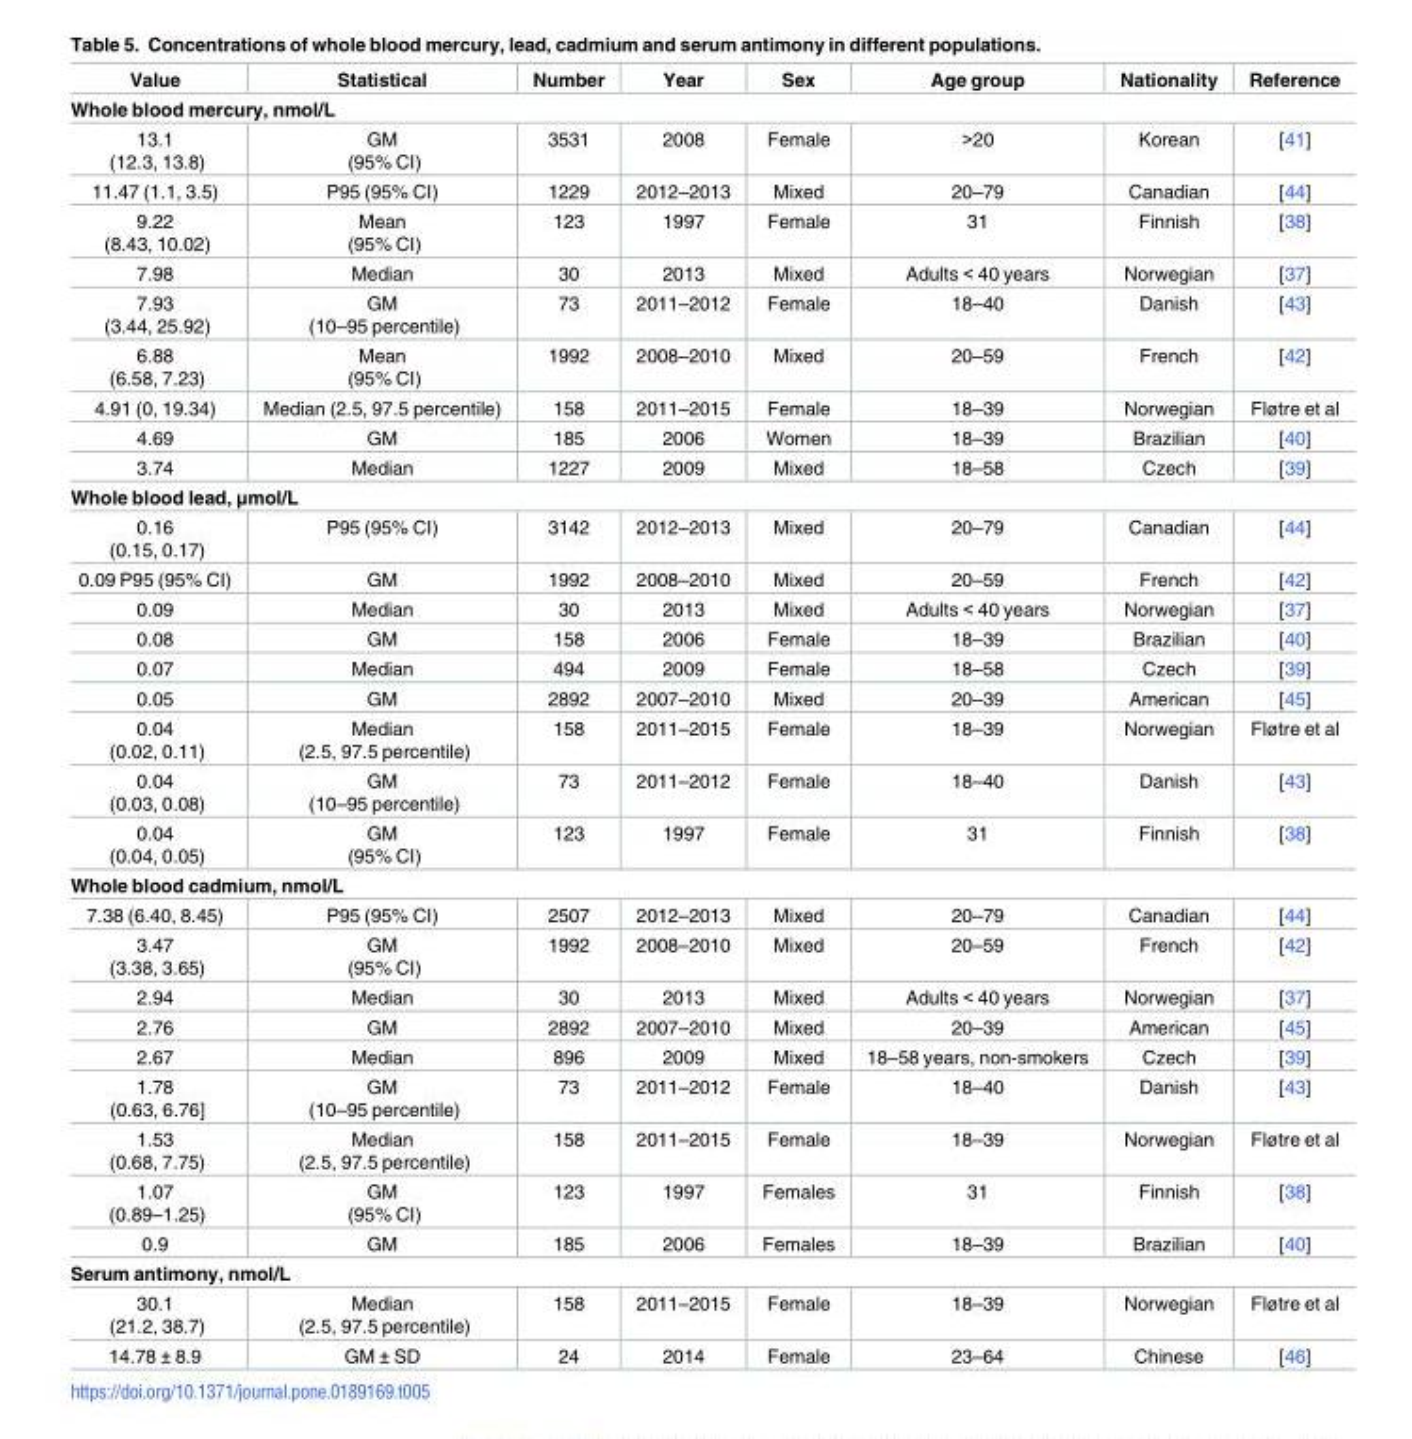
<table><thead><tr><td>Value</td><td>Statistical</td><td>Number</td><td>Year</td><td>Sex</td><td>Age group</td><td>Nationality</td><td>Reference</td></tr></thead><tbody><tr><td colspan="8">Whole blood mercury, nmol/L</td></tr><tr><td>13.1 (12.3, 13.8)</td><td>GM (95% CI)</td><td>3531</td><td>2008</td><td>Female</td><td>&gt;20</td><td>Korean</td><td>[41]</td></tr><tr><td>11.47 (1.1, 3.5)</td><td>P95 (95% CI)</td><td>1229</td><td>2012–2013</td><td>Mixed</td><td>20–79</td><td>Canadian</td><td>[44]</td></tr><tr><td>9.22 (8.43, 10.02)</td><td>Mean (95% CI)</td><td>123</td><td>1997</td><td>Female</td><td>31</td><td>Finnish</td><td>[38]</td></tr><tr><td>7.98</td><td>Median</td><td>30</td><td>2013</td><td>Mixed</td><td>Adults &lt; 40 years</td><td>Norwegian</td><td>[37]</td></tr><tr><td>7.93 (3.44, 25.92)</td><td>GM (10–95 percentile)</td><td>73</td><td>2011–2012</td><td>Female</td><td>18–40</td><td>Danish</td><td>[43]</td></tr><tr><td>6.88 (6.58, 7.23)</td><td>Mean (95% CI)</td><td>1992</td><td>2008–2010</td><td>Mixed</td><td>20–59</td><td>French</td><td>[42]</td></tr><tr><td>4.91 (0, 19.34)</td><td>Median (2.5, 97.5 percentile)</td><td>158</td><td>2011–2015</td><td>Female</td><td>18–39</td><td>Norwegian</td><td>Fløtre et al</td></tr><tr><td>4.69</td><td>GM</td><td>185</td><td>2006</td><td>Women</td><td>18–39</td><td>Brazilian</td><td>[40]</td></tr><tr><td>3.74</td><td>Median</td><td>1227</td><td>2009</td><td>Mixed</td><td>18–58</td><td>Czech</td><td>[39]</td></tr><tr><td colspan="8">Whole blood lead, μmol/L</td></tr><tr><td>0.16 (0.15, 0.17)</td><td>P95 (95% CI)</td><td>3142</td><td>2012–2013</td><td>Mixed</td><td>20–79</td><td>Canadian</td><td>[44]</td></tr><tr><td>0.09 P95 (95% CI)</td><td>GM</td><td>1992</td><td>2008–2010</td><td>Mixed</td><td>20–59</td><td>French</td><td>[42]</td></tr><tr><td>0.09</td><td>Median</td><td>30</td><td>2013</td><td>Mixed</td><td>Adults &lt; 40 years</td><td>Norwegian</td><td>[37]</td></tr><tr><td>0.08</td><td>GM</td><td>158</td><td>2006</td><td>Female</td><td>18–39</td><td>Brazilian</td><td>[40]</td></tr><tr><td>0.07</td><td>Median</td><td>494</td><td>2009</td><td>Female</td><td>18–58</td><td>Czech</td><td>[39]</td></tr><tr><td>0.05</td><td>GM</td><td>2892</td><td>2007–2010</td><td>Mixed</td><td>20–39</td><td>American</td><td>[45]</td></tr><tr><td>0.04 (0.02, 0.11)</td><td>Median (2.5, 97.5 percentile)</td><td>158</td><td>2011–2015</td><td>Female</td><td>18–39</td><td>Norwegian</td><td>Fløtre et al</td></tr><tr><td>0.04 (0.03, 0.08)</td><td>GM (10–95 percentile)</td><td>73</td><td>2011–2012</td><td>Female</td><td>18–40</td><td>Danish</td><td>[43]</td></tr><tr><td>0.04 (0.04, 0.05)</td><td>GM (95% CI)</td><td>123</td><td>1997</td><td>Female</td><td>31</td><td>Finnish</td><td>[38]</td></tr><tr><td colspan="8">Whole blood cadmium, nmol/L</td></tr><tr><td>7.38 (6.40, 8.45)</td><td>P95 (95% CI)</td><td>2507</td><td>2012–2013</td><td>Mixed</td><td>20–79</td><td>Canadian</td><td>[44]</td></tr><tr><td>3.47 (3.38, 3.65)</td><td>GM (95% CI)</td><td>1992</td><td>2008–2010</td><td>Mixed</td><td>20–59</td><td>French</td><td>[42]</td></tr><tr><td>2.94</td><td>Median</td><td>30</td><td>2013</td><td>Mixed</td><td>Adults &lt; 40 years</td><td>Norwegian</td><td>[37]</td></tr><tr><td>2.76</td><td>GM</td><td>2892</td><td>2007–2010</td><td>Mixed</td><td>20–39</td><td>American</td><td>[45]</td></tr><tr><td>2.67</td><td>Median</td><td>896</td><td>2009</td><td>Mixed</td><td>18–58 years, non-smokers</td><td>Czech</td><td>[39]</td></tr><tr><td>1.78 (0.63, 6.76]</td><td>GM (10–95 percentile)</td><td>73</td><td>2011–2012</td><td>Female</td><td>18–40</td><td>Danish</td><td>[43]</td></tr><tr><td>1.53 (0.68, 7.75)</td><td>Median (2.5, 97.5 percentile)</td><td>158</td><td>2011–2015</td><td>Female</td><td>18–39</td><td>Norwegian</td><td>Fløtre et al</td></tr><tr><td>1.07 (0.89–1.25)</td><td>GM (95% CI)</td><td>123</td><td>1997</td><td>Females</td><td>31</td><td>Finnish</td><td>[38]</td></tr><tr><td>0.9</td><td>GM</td><td>185</td><td>2006</td><td>Females</td><td>18–39</td><td>Brazilian</td><td>[40]</td></tr><tr><td colspan="8">Serum antimony, nmol/L</td></tr><tr><td>30.1 (21.2, 38.7)</td><td>Median (2.5, 97.5 percentile)</td><td>158</td><td>2011–2015</td><td>Female</td><td>18–39</td><td>Norwegian</td><td>Fløtre et al</td></tr><tr><td>14.78 ± 8.9</td><td>GM ± SD</td><td>24</td><td>2014</td><td>Female</td><td>23–64</td><td>Chinese</td><td>[46]</td></tr></tbody></table>